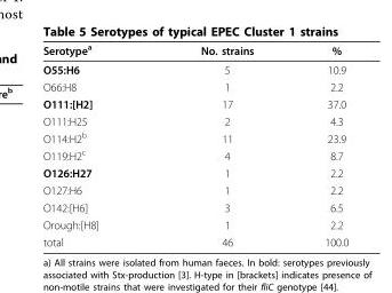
<table><thead><tr><td>Serotype<sup>a</sup></td><td>No. strains</td><td>%</td></tr></thead><tbody><tr><td>O55:H6</td><td>5</td><td>10.9</td></tr><tr><td>O66:H8</td><td>1</td><td>2.2</td></tr><tr><td>O111:[H2]</td><td>17</td><td>37.0</td></tr><tr><td>O111:H25</td><td>2</td><td>4.3</td></tr><tr><td>O114:H2<sup>b</sup></td><td>11</td><td>23.9</td></tr><tr><td>O119:H2<sup>c</sup></td><td>4</td><td>8.7</td></tr><tr><td>O126:H27</td><td>1</td><td>2.2</td></tr><tr><td>O127:H6</td><td>1</td><td>2.2</td></tr><tr><td>O142:[H6]</td><td>3</td><td>6.5</td></tr><tr><td>Orough:[H8]</td><td>1</td><td>2.2</td></tr><tr><td>total</td><td>46</td><td>100.0</td></tr></tbody></table>